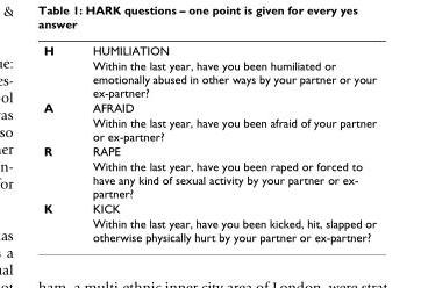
<table><tbody><tr><td rowspan="2">H</td><td>HUMILIATION</td></tr><tr><td>Within the last year, have you been humiliated or emotionally abused in other ways by your partner or your ex-partner?</td></tr><tr><td rowspan="2">A</td><td>AFRAID</td></tr><tr><td>Within the last year, have you been afraid of your partner or ex-partner?</td></tr><tr><td rowspan="2">R</td><td>RAPE</td></tr><tr><td>Within the last year, have you been raped or forced to have any kind of sexual activity by your partner or ex- partner?</td></tr><tr><td rowspan="2">K</td><td>KICK</td></tr><tr><td>Within the last year, have you been kicked, hit, slapped or otherwise physically hurt by your partner or ex-partner?</td></tr></tbody></table>